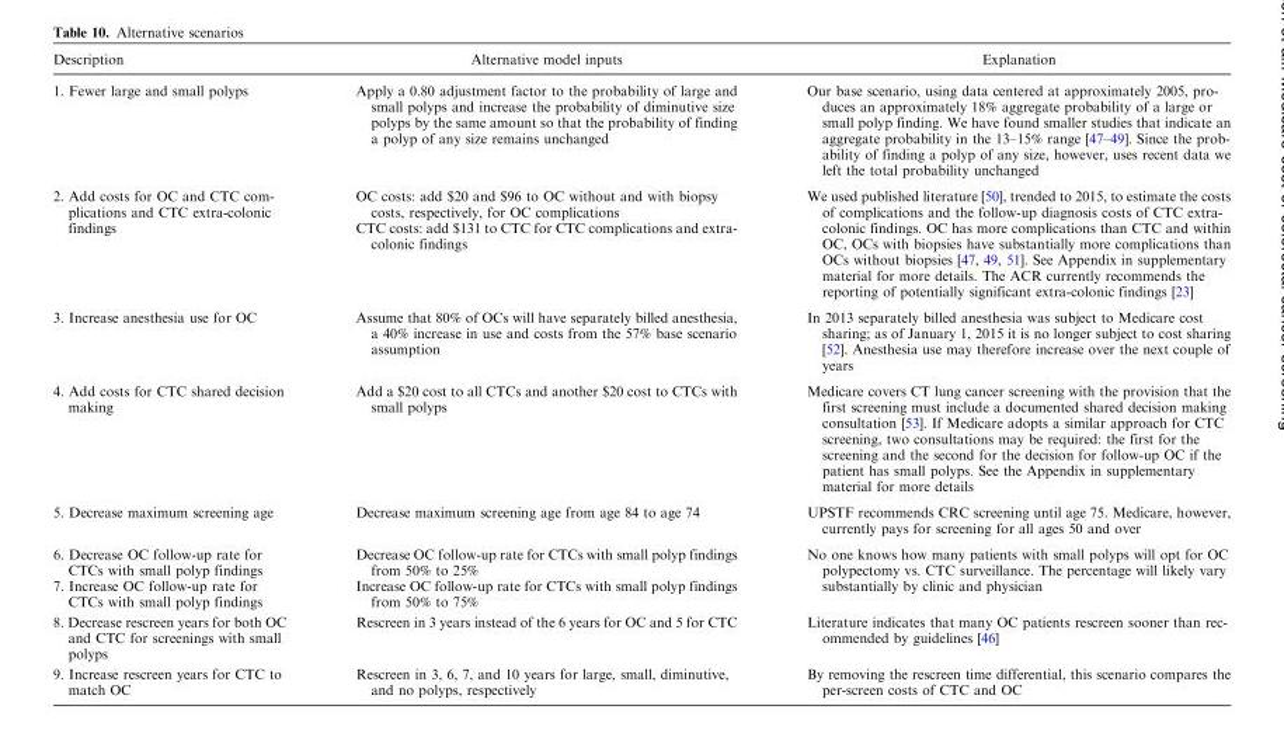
<table><thead><tr><td>Description</td><td>Alternative model inputs</td><td>Explanation</td></tr></thead><tbody><tr><td>1. Fewer large and small polyps</td><td>Apply a 0.80 adjustment factor to the probability of large and small polyps and increase the probability of diminutive size polyps by the same amount so that the probability of finding a polyp of any size remains unchanged</td><td>Our base scenario, using data centered at approximately 2005, pro- duces an approximately 18% aggregate probability of a large or small polyp finding. We have found smaller studies that indicate an aggregate probability in the 13–15% range [47–49]. Since the prob- ability of finding a polyp of any size, however, uses recent data we left the total probability unchanged</td></tr><tr><td rowspan="2">2. Add costs for OC and CTC com- plications and CTC extra-colonic findings</td><td>OC costs: add $20 and $96 to OC without and with biopsy costs, respectively, for OC complications</td><td rowspan="2">We used published literature [50], trended to 2015, to estimate the costs of complications and the follow-up diagnosis costs of CTC extra- colonic findings. OC has more complications than CTC and within OC, OCs with biopsies have substantially more complications than OCs without biopsies [47, 49, 51]. See Appendix in supplementary material for more details. The ACR currently recommends the reporting of potentially significant extra-colonic findings [23]</td></tr><tr><td>CTC costs: add $131 to CTC for CTC complications and extra- colonic findings</td></tr><tr><td>3. Increase anesthesia use for OC</td><td>Assume that 80% of OCs will have separately billed anesthesia, a 40% increase in use and costs from the 57% base scenario assumption</td><td>In 2013 separately billed anesthesia was subject to Medicare cost sharing; as of January 1, 2015 it is no longer subject to cost sharing [52]. Anesthesia use may therefore increase over the next couple of years</td></tr><tr><td>4. Add costs for CTC shared decision making</td><td>Add a $20 cost to all CTCs and another $20 cost to CTCs with small polyps</td><td>Medicare covers CT lung cancer screening with the provision that the first screening must include a documented shared decision making consultation [53]. If Medicare adopts a similar approach for CTC screening, two consultations may be required: the first for the screening and the second for the decision for follow-up OC if the patient has small polyps. See the Appendix in supplementary material for more details</td></tr><tr><td>5. Decrease maximum screening age</td><td>Decrease maximum screening age from age 84 to age 74</td><td>UPSTF recommends CRC screening until age 75. Medicare, however, currently pays for screening for all ages 50 and over</td></tr><tr><td>6. Decrease OC follow-up rate for CTCs with small polyp findings</td><td>Decrease OC follow-up rate for CTCs with small polyp findings from 50% to 25%</td><td rowspan="2">No one knows how many patients with small polyps will opt for OC polypectomy vs. CTC surveillance. The percentage will likely vary substantially by clinic and physician</td></tr><tr><td>7. Increase OC follow-up rate for CTCs with small polyp findings</td><td>Increase OC follow-up rate for CTCs with small polyp findings from 50% to 75%</td></tr><tr><td>8. Decrease rescreen years for both OC and CTC for screenings with small polyps</td><td>Rescreen in 3 years instead of the 6 years for OC and 5 for CTC</td><td>Literature indicates that many OC patients rescreen sooner than rec- ommended by guidelines [46]</td></tr><tr><td>9. Increase rescreen years for CTC to match OC</td><td>Rescreen in 3, 6, 7, and 10 years for large, small, diminutive, and no polyps, respectively</td><td>By removing the rescreen time differential, this scenario compares the per-screen costs of CTC and OC</td></tr></tbody></table>